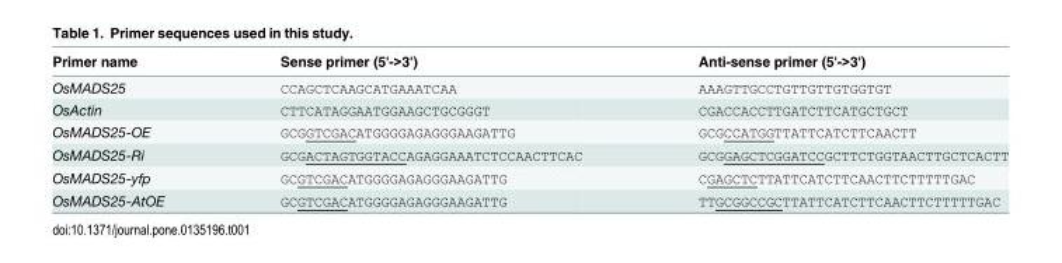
<table><thead><tr><td>Primer name</td><td>Sense primer (5&#x27;-&gt;3&#x27;)</td><td>Anti-sense primer (5&#x27;-&gt;3&#x27;)</td></tr></thead><tbody><tr><td>OsMADS25</td><td>CCAGCTCAAGCATGAAATCAA</td><td>AAAGTTGCCTGTTGTTGTGGTGT</td></tr><tr><td>OsActin</td><td>CTTCATAGGAATGGAAGCTGCGGGT</td><td>CGACCACCTTGATCTTCATGCTGCT</td></tr><tr><td>OsMADS25-OE</td><td>GCGGTCGACATGGGGAGAGGGAAGATTG</td><td>GCGCCATGGTTATTCATCTTCAACTT</td></tr><tr><td>OsMADS25-Ri</td><td>GCGACTAGTGGTACCAGAGGAAATCTCCAACTTCAC</td><td>GCGGAGCTCGGATCCGCTTCTGGTAACTTGCTCACTT</td></tr><tr><td>OsMADS25-yfp</td><td>GCGTCGACATGGGGAGAGGGAAGATTG</td><td>CGAGCTCTTATTCATCTTCAACTTCTTTTTGAC</td></tr><tr><td>OsMADS25-AtOE</td><td>GCGTCGACATGGGGAGAGGGAAGATTG</td><td>TTGCGGCCGCTTATTCATCTTCAACTTCTTTTTGAC</td></tr></tbody></table>